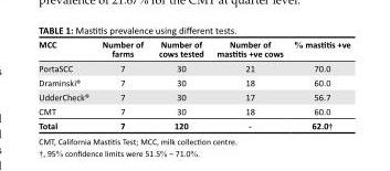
<table><thead><tr><td>MCC</td><td>Number of farms</td><td>Number of cows tested</td><td>Number of mastitis +ve cows</td><td>% mastitis +ve</td></tr></thead><tbody><tr><td>PortaSCC</td><td>7</td><td>30</td><td>21</td><td>70.0</td></tr><tr><td>Draminski<sup>®</sup></td><td>7</td><td>30</td><td>18</td><td>60.0</td></tr><tr><td>UdderCheck<sup>®</sup></td><td>7</td><td>30</td><td>17</td><td>56.7</td></tr><tr><td>CMT</td><td>7</td><td>30</td><td>18</td><td>60.0</td></tr><tr><td>Total</td><td>7</td><td>120</td><td>-</td><td>62.0†</td></tr></tbody></table>